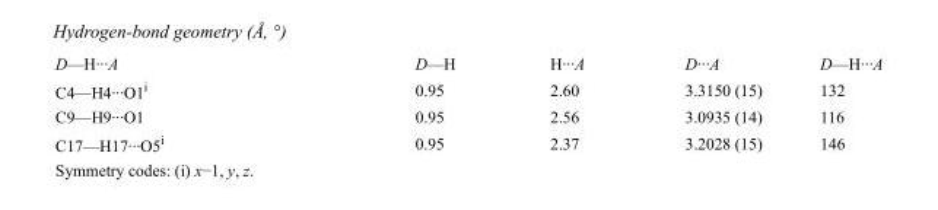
<table><tbody><tr><td>D—H···A</td><td>D—H</td><td>H···A</td><td>D···A</td><td>D—H···A</td></tr><tr><td>C4—H4···O1<sup>i</sup></td><td>0.95</td><td>2.60</td><td>3.3150 (15)</td><td>132</td></tr><tr><td>C9—H9···O1</td><td>0.95</td><td>2.56</td><td>3.0935 (14)</td><td>116</td></tr><tr><td>C17—H17···O5<sup>i</sup></td><td>0.95</td><td>2.37</td><td>3.2028 (15)</td><td>146</td></tr></tbody></table>